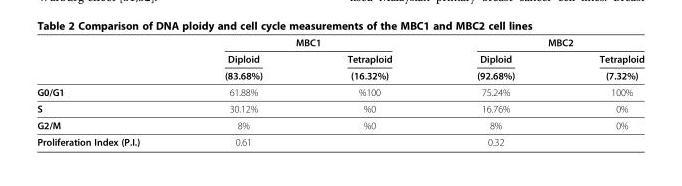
<table><thead><tr><td rowspan="3"></td><td colspan="2">MBC1</td><td colspan="2">MBC2</td></tr><tr><td rowspan="2">Diploid (83.68%)</td><td rowspan="2">Tetraploid (16.32%)</td><td rowspan="2">Diploid (92.68%)</td><td rowspan="2">Tetraploid (7.32%)</td></tr><tr></tr></thead><tbody><tr><td>G0/G1</td><td>61.88%</td><td>%100</td><td>75.24%</td><td>100%</td></tr><tr><td>S</td><td>30.12%</td><td>%0</td><td>16.76%</td><td>0%</td></tr><tr><td>G2/M</td><td>8%</td><td>%0</td><td>8%</td><td>0%</td></tr><tr><td>Proliferation Index (P.I.)</td><td>0.61</td><td></td><td>0.32</td><td></td></tr></tbody></table>